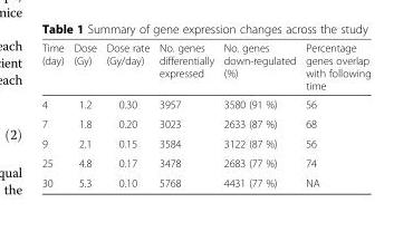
<table><thead><tr><td>Time (day)</td><td>Dose (Gy)</td><td>Dose rate (Gy/day)</td><td>No. genes differentially expressed</td><td>No. genes down-regulated (%)</td><td>Percentage genes overlap with following time</td></tr></thead><tbody><tr><td>4</td><td>1.2</td><td>0.30</td><td>3957</td><td>3580 (91 %)</td><td>56</td></tr><tr><td>7</td><td>1.8</td><td>0.20</td><td>3023</td><td>2633 (87 %)</td><td>68</td></tr><tr><td>9</td><td>2.1</td><td>0.15</td><td>3584</td><td>3122 (87 %)</td><td>56</td></tr><tr><td>25</td><td>4.8</td><td>0.17</td><td>3478</td><td>2683 (77 %)</td><td>74</td></tr><tr><td>30</td><td>5.3</td><td>0.10</td><td>5768</td><td>4431 (77 %)</td><td>NA</td></tr></tbody></table>